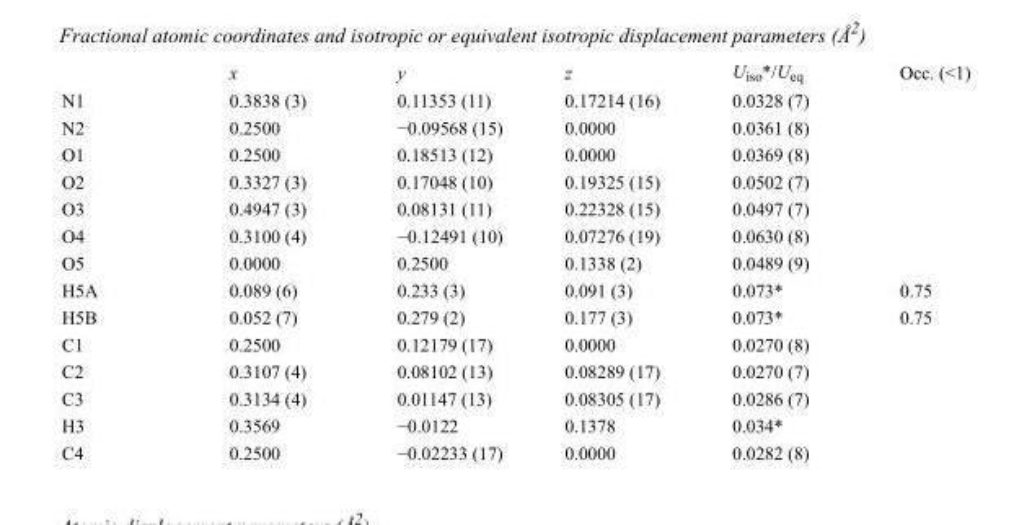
<table><thead><tr><td></td><td>x</td><td>y</td><td>z</td><td>Uiso*/Ueq</td><td>Occ. (&lt;1)</td></tr></thead><tbody><tr><td>N1</td><td>0.3838 (3)</td><td>0.11353 (11)</td><td>0.17214 (16)</td><td>0.0328 (7)</td><td></td></tr><tr><td>N2</td><td>0.2500</td><td>−0.09568 (15)</td><td>0.0000</td><td>0.0361 (8)</td><td></td></tr><tr><td>O1</td><td>0.2500</td><td>0.18513 (12)</td><td>0.0000</td><td>0.0369 (8)</td><td></td></tr><tr><td>O2</td><td>0.3327 (3)</td><td>0.17048 (10)</td><td>0.19325 (15)</td><td>0.0502 (7)</td><td></td></tr><tr><td>O3</td><td>0.4947 (3)</td><td>0.08131 (11)</td><td>0.22328 (15)</td><td>0.0497 (7)</td><td></td></tr><tr><td>O4</td><td>0.3100 (4)</td><td>−0.12491 (10)</td><td>0.07276 (19)</td><td>0.0630 (8)</td><td></td></tr><tr><td>O5</td><td>0.0000</td><td>0.2500</td><td>0.1338 (2)</td><td>0.0489 (9)</td><td></td></tr><tr><td>H5A</td><td>0.089 (6)</td><td>0.233 (3)</td><td>0.091 (3)</td><td>0.073*</td><td>0.75</td></tr><tr><td>H5B</td><td>0.052 (7)</td><td>0.279 (2)</td><td>0.177 (3)</td><td>0.073*</td><td>0.75</td></tr><tr><td>C1</td><td>0.2500</td><td>0.12179 (17)</td><td>0.0000</td><td>0.0270 (8)</td><td></td></tr><tr><td>C2</td><td>0.3107 (4)</td><td>0.08102 (13)</td><td>0.08289 (17)</td><td>0.0270 (7)</td><td></td></tr><tr><td>C3</td><td>0.3134 (4)</td><td>0.01147 (13)</td><td>0.08305 (17)</td><td>0.0286 (7)</td><td></td></tr><tr><td>H3</td><td>0.3569</td><td>−0.0122</td><td>0.1378</td><td>0.034*</td><td></td></tr><tr><td>C4</td><td>0.2500</td><td>−0.02233 (17)</td><td>0.0000</td><td>0.0282 (8)</td><td></td></tr></tbody></table>